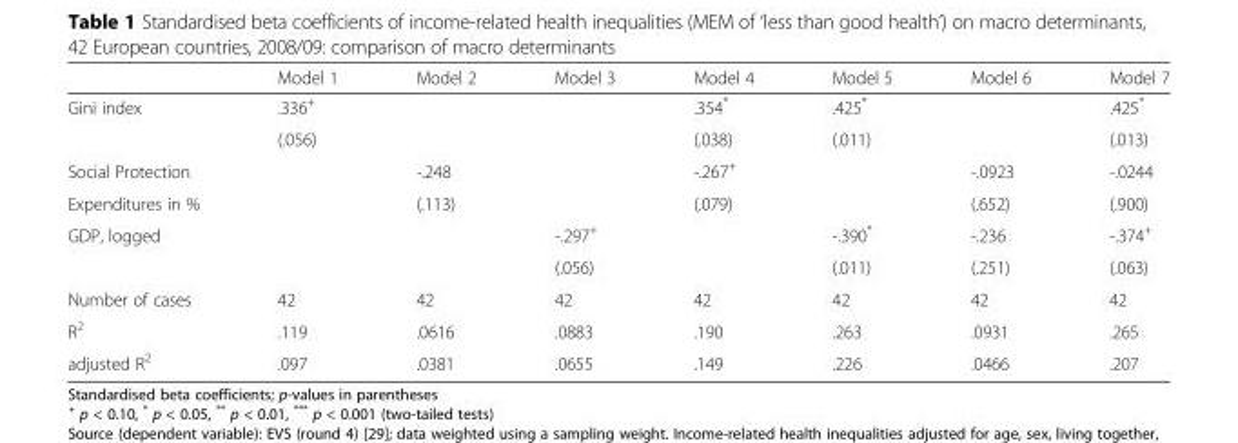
<table><thead><tr><td></td><td>Model 1</td><td>Model 2</td><td>Model 3</td><td>Model 4</td><td>Model 5</td><td>Model 6</td><td>Model 7</td></tr></thead><tbody><tr><td rowspan="2">Gini index</td><td>.336<sup>+</sup></td><td></td><td></td><td>.354*</td><td>.425*</td><td></td><td>.425*</td></tr><tr><td>(.056)</td><td></td><td></td><td>(.038)</td><td>(.011)</td><td></td><td>(.013)</td></tr><tr><td>Social Protection</td><td></td><td>-.248</td><td></td><td>-.267<sup>+</sup></td><td></td><td>-.0923</td><td>-.0244</td></tr><tr><td>Expenditures in %</td><td></td><td>(.113)</td><td></td><td>(.079)</td><td></td><td>(.652)</td><td>(.900)</td></tr><tr><td rowspan="2">GDP, logged</td><td></td><td></td><td>-.297<sup>+</sup></td><td></td><td>-.390*</td><td>-.236</td><td>-.374<sup>+</sup></td></tr><tr><td></td><td></td><td>(.056)</td><td></td><td>(.011)</td><td>(.251)</td><td>(.063)</td></tr><tr><td>Number of cases</td><td>42</td><td>42</td><td>42</td><td>42</td><td>42</td><td>42</td><td>42</td></tr><tr><td>R<sup>2</sup></td><td>.119</td><td>.0616</td><td>.0883</td><td>.190</td><td>.263</td><td>.0931</td><td>.265</td></tr><tr><td>adjusted R<sup>2</sup></td><td>.097</td><td>.0381</td><td>.0655</td><td>.149</td><td>.226</td><td>.0466</td><td>.207</td></tr></tbody></table>